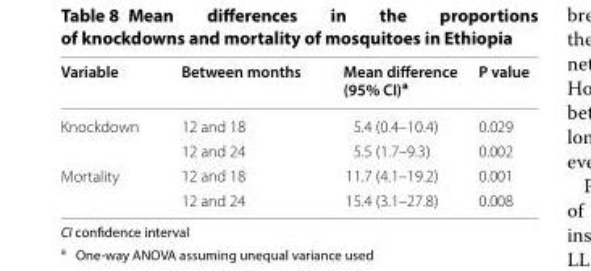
<table><thead><tr><td>Variable</td><td>Between months</td><td>Mean difference (95% CI)<sup>a</sup></td><td>P value</td></tr></thead><tbody><tr><td rowspan="2">Knockdown</td><td>12 and 18</td><td>5.4 (0.4–10.4)</td><td>0.029</td></tr><tr><td>12 and 24</td><td>5.5 (1.7–9.3)</td><td>0.002</td></tr><tr><td rowspan="2">Mortality</td><td>12 and 18</td><td>11.7 (4.1–19.2)</td><td>0.001</td></tr><tr><td>12 and 24</td><td>15.4 (3.1–27.8)</td><td>0.008</td></tr></tbody></table>